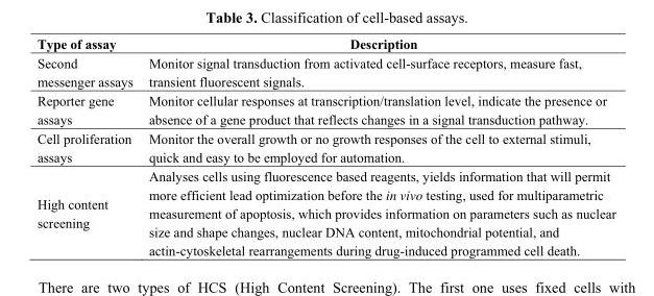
<table><thead><tr><td>Type of assay</td><td>Description</td></tr></thead><tbody><tr><td>Second messenger assays</td><td>Monitor signal transduction from activated cell-surface receptors, measure fast, transient fluorescent signals.</td></tr><tr><td>Reporter gene assays</td><td>Monitor cellular responses at transcription/translation level, indicate the presence or absence of a gene product that reflects changes in a signal transduction pathway.</td></tr><tr><td>Cell proliferation assays</td><td>Monitor the overall growth or no growth responses of the cell to external stimuli, quick and easy to be employed for automation.</td></tr><tr><td>High content screening</td><td>Analyses cells using fluorescence based reagents, yields information that will permit more efficient lead optimization before the in vivo testing, used for multiparametric measurement of apoptosis, which provides information on parameters such as nuclear size and shape changes, nuclear DNA content, mitochondrial potential, and actin-cytoskeletal rearrangements during drug-induced programmed cell death.</td></tr></tbody></table>